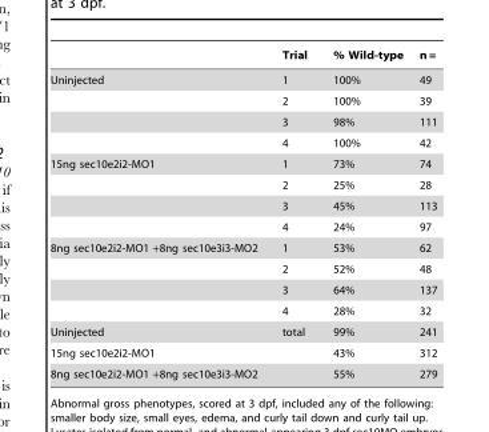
<table><thead><tr><td></td><td>Trial</td><td>% Wild-type</td><td>n =</td></tr></thead><tbody><tr><td rowspan="4">Uninjected</td><td>1</td><td>100%</td><td>49</td></tr><tr><td>2</td><td>100%</td><td>39</td></tr><tr><td>3</td><td>98%</td><td>111</td></tr><tr><td>4</td><td>100%</td><td>42</td></tr><tr><td rowspan="4">15ng sec10e2i2-MO1</td><td>1</td><td>73%</td><td>74</td></tr><tr><td>2</td><td>25%</td><td>28</td></tr><tr><td>3</td><td>45%</td><td>113</td></tr><tr><td>4</td><td>24%</td><td>97</td></tr><tr><td rowspan="4">8ng sec10e2i2-MO1 +8ng sec10e3i3-MO2</td><td>1</td><td>53%</td><td>62</td></tr><tr><td>2</td><td>52%</td><td>48</td></tr><tr><td>3</td><td>64%</td><td>137</td></tr><tr><td>4</td><td>28%</td><td>32</td></tr><tr><td>Uninjected</td><td>total</td><td>99%</td><td>241</td></tr><tr><td>15ng sec10e2i2-MO1</td><td></td><td>43%</td><td>312</td></tr><tr><td>8ng sec10e2i2-MO1 +8ng sec10e3i3-MO2</td><td></td><td>55%</td><td>279</td></tr></tbody></table>